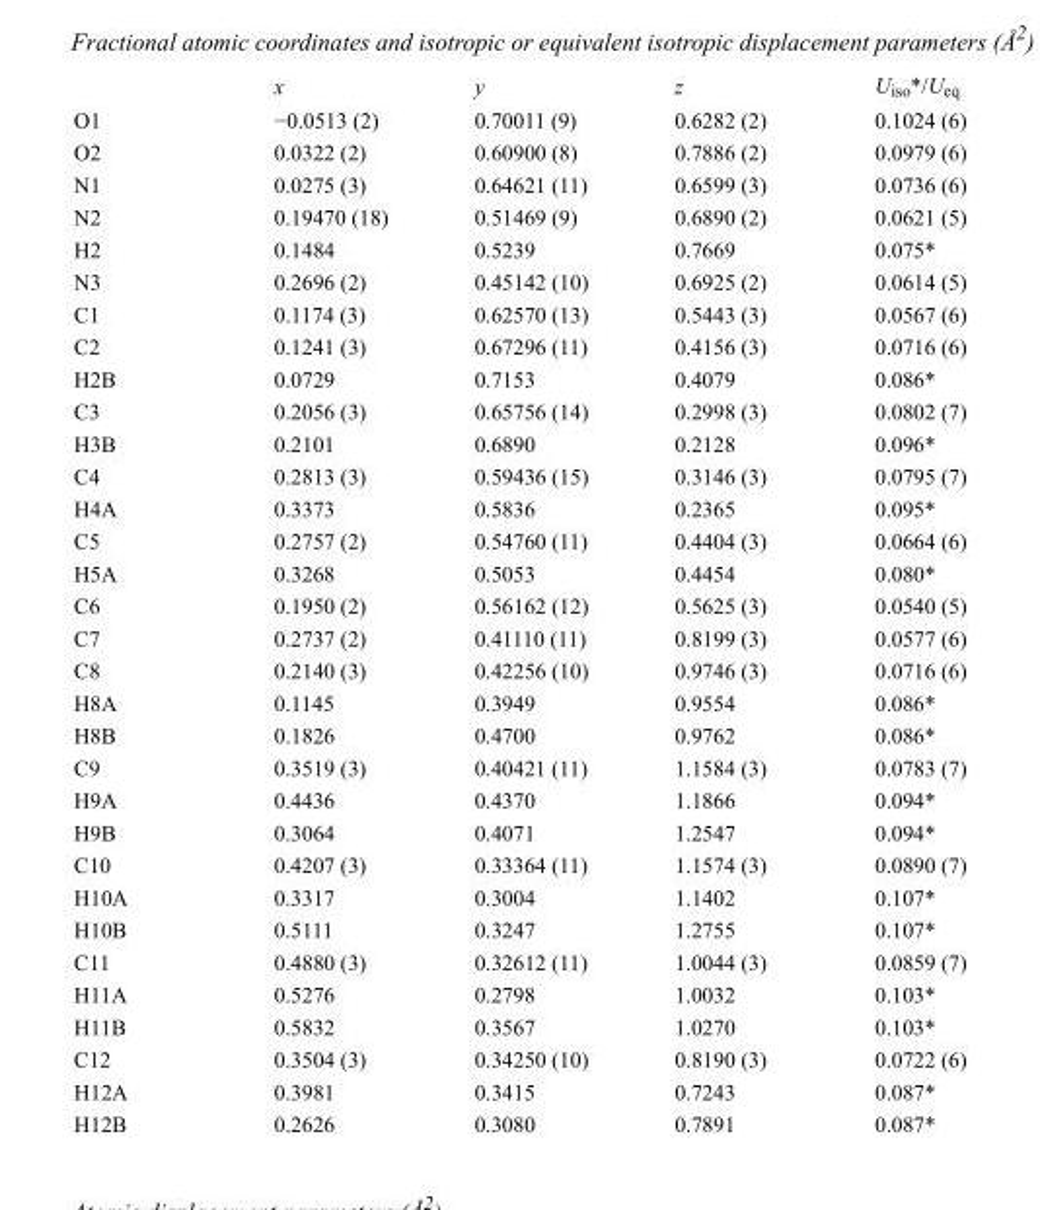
<table><thead><tr><td></td><td>x</td><td>y</td><td>z</td><td>U<sub>iso</sub>*/U<sub>eq</sub></td></tr></thead><tbody><tr><td>O1</td><td>−0.0513 (2)</td><td>0.70011 (9)</td><td>0.6282 (2)</td><td>0.1024 (6)</td></tr><tr><td>O2</td><td>0.0322 (2)</td><td>0.60900 (8)</td><td>0.7886 (2)</td><td>0.0979 (6)</td></tr><tr><td>N1</td><td>0.0275 (3)</td><td>0.64621 (11)</td><td>0.6599 (3)</td><td>0.0736 (6)</td></tr><tr><td>N2</td><td>0.19470 (18)</td><td>0.51469 (9)</td><td>0.6890 (2)</td><td>0.0621 (5)</td></tr><tr><td>H2</td><td>0.1484</td><td>0.5239</td><td>0.7669</td><td>0.075*</td></tr><tr><td>N3</td><td>0.2696 (2)</td><td>0.45142 (10)</td><td>0.6925 (2)</td><td>0.0614 (5)</td></tr><tr><td>C1</td><td>0.1174 (3)</td><td>0.62570 (13)</td><td>0.5443 (3)</td><td>0.0567 (6)</td></tr><tr><td>C2</td><td>0.1241 (3)</td><td>0.67296 (11)</td><td>0.4156 (3)</td><td>0.0716 (6)</td></tr><tr><td>H2B</td><td>0.0729</td><td>0.7153</td><td>0.4079</td><td>0.086*</td></tr><tr><td>C3</td><td>0.2056 (3)</td><td>0.65756 (14)</td><td>0.2998 (3)</td><td>0.0802 (7)</td></tr><tr><td>H3B</td><td>0.2101</td><td>0.6890</td><td>0.2128</td><td>0.096*</td></tr><tr><td>C4</td><td>0.2813 (3)</td><td>0.59436 (15)</td><td>0.3146 (3)</td><td>0.0795 (7)</td></tr><tr><td>H4A</td><td>0.3373</td><td>0.5836</td><td>0.2365</td><td>0.095*</td></tr><tr><td>C5</td><td>0.2757 (2)</td><td>0.54760 (11)</td><td>0.4404 (3)</td><td>0.0664 (6)</td></tr><tr><td>H5A</td><td>0.3268</td><td>0.5053</td><td>0.4454</td><td>0.080*</td></tr><tr><td>C6</td><td>0.1950 (2)</td><td>0.56162 (12)</td><td>0.5625 (3)</td><td>0.0540 (5)</td></tr><tr><td>C7</td><td>0.2737 (2)</td><td>0.41110 (11)</td><td>0.8199 (3)</td><td>0.0577 (6)</td></tr><tr><td>C8</td><td>0.2140 (3)</td><td>0.42256 (10)</td><td>0.9746 (3)</td><td>0.0716 (6)</td></tr><tr><td>H8A</td><td>0.1145</td><td>0.3949</td><td>0.9554</td><td>0.086*</td></tr><tr><td>H8B</td><td>0.1826</td><td>0.4700</td><td>0.9762</td><td>0.086*</td></tr><tr><td>C9</td><td>0.3519 (3)</td><td>0.40421 (11)</td><td>1.1584 (3)</td><td>0.0783 (7)</td></tr><tr><td>H9A</td><td>0.4436</td><td>0.4370</td><td>1.1866</td><td>0.094*</td></tr><tr><td>H9B</td><td>0.3064</td><td>0.4071</td><td>1.2547</td><td>0.094*</td></tr><tr><td>C10</td><td>0.4207 (3)</td><td>0.33364 (11)</td><td>1.1574 (3)</td><td>0.0890 (7)</td></tr><tr><td>H10A</td><td>0.3317</td><td>0.3004</td><td>1.1402</td><td>0.107*</td></tr><tr><td>H10B</td><td>0.5111</td><td>0.3247</td><td>1.2755</td><td>0.107*</td></tr><tr><td>C11</td><td>0.4880 (3)</td><td>0.32612 (11)</td><td>1.0044 (3)</td><td>0.0859 (7)</td></tr><tr><td>H11A</td><td>0.5276</td><td>0.2798</td><td>1.0032</td><td>0.103*</td></tr><tr><td>H11B</td><td>0.5832</td><td>0.3567</td><td>1.0270</td><td>0.103*</td></tr><tr><td>C12</td><td>0.3504 (3)</td><td>0.34250 (10)</td><td>0.8190 (3)</td><td>0.0722 (6)</td></tr><tr><td>H12A</td><td>0.3981</td><td>0.3415</td><td>0.7243</td><td>0.087*</td></tr><tr><td>H12B</td><td>0.2626</td><td>0.3080</td><td>0.7891</td><td>0.087*</td></tr></tbody></table>